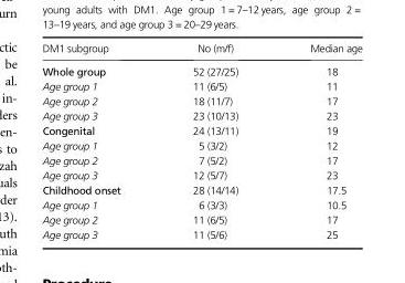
<table><thead><tr><td>DM1 subgroup</td><td>No (m/f)</td><td>Median age</td></tr></thead><tbody><tr><td>Whole group</td><td>52 (27/25)</td><td>18</td></tr><tr><td>Age group 1</td><td>11 (6/5)</td><td>11</td></tr><tr><td>Age group 2</td><td>18 (11/7)</td><td>17</td></tr><tr><td>Age group 3</td><td>23 (10/13)</td><td>23</td></tr><tr><td>Congenital</td><td>24 (13/11)</td><td>19</td></tr><tr><td>Age group 1</td><td>5 (3/2)</td><td>12</td></tr><tr><td>Age group 2</td><td>7 (5/2)</td><td>17</td></tr><tr><td>Age group 3</td><td>12 (5/7)</td><td>23</td></tr><tr><td>Childhood onset</td><td>28 (14/14)</td><td>17.5</td></tr><tr><td>Age group 1</td><td>6 (3/3)</td><td>10.5</td></tr><tr><td>Age group 2</td><td>11 (6/5)</td><td>17</td></tr><tr><td>Age group 3</td><td>11 (5/6)</td><td>25</td></tr></tbody></table>